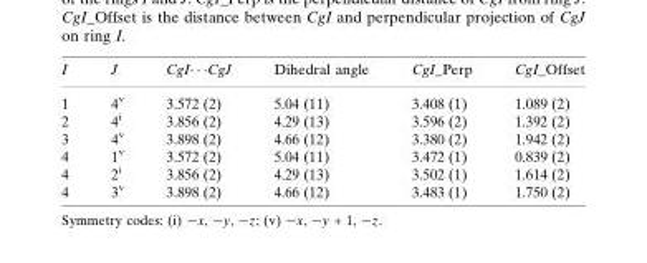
<table><tbody><tr><td>I</td><td>J</td><td>CgI· · ·CgJ</td><td>Dihedral angle</td><td>CgI_Perp</td><td>CgI_Offset</td></tr><tr><td>1</td><td>4<sup>v</sup></td><td>3.572 (2)</td><td>5.04 (11)</td><td>3.408 (1)</td><td>1.089 (2)</td></tr><tr><td>2</td><td>4<sup>i</sup></td><td>3.856 (2)</td><td>4.29 (13)</td><td>3.596 (2)</td><td>1.392 (2)</td></tr><tr><td>3</td><td>4<sup>v</sup></td><td>3.898 (2)</td><td>4.66 (12)</td><td>3.380 (2)</td><td>1.942 (2)</td></tr><tr><td>4</td><td>1<sup>v</sup></td><td>3.572 (2)</td><td>5.04 (11)</td><td>3.472 (1)</td><td>0.839 (2)</td></tr><tr><td>4</td><td>2<sup>i</sup></td><td>3.856 (2)</td><td>4.29 (13)</td><td>3.502 (1)</td><td>1.614 (2)</td></tr><tr><td>4</td><td>3<sup>v</sup></td><td>3.898 (2)</td><td>4.66 (12)</td><td>3.483 (1)</td><td>1.750 (2)</td></tr></tbody></table>